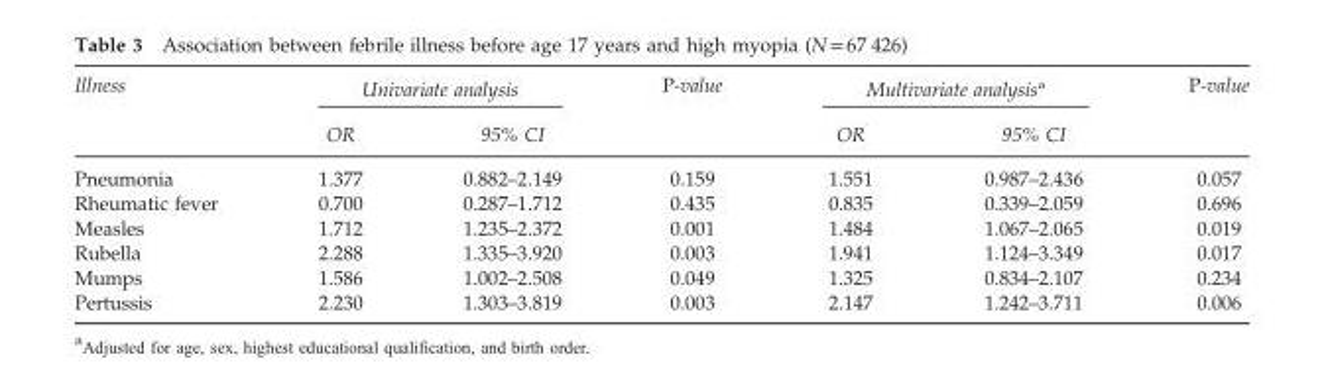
<table><thead><tr><td rowspan="2">Illness</td><td colspan="2">Univariate analysis</td><td rowspan="2">P-value</td><td colspan="2">Multivariate analysis<sup>a</sup></td><td rowspan="2">P-value</td></tr><tr><td>OR</td><td>95% CI</td><td>OR</td><td>95% CI</td></tr></thead><tbody><tr><td>Pneumonia</td><td>1.377</td><td>0.882–2.149</td><td>0.159</td><td>1.551</td><td>0.987–2.436</td><td>0.057</td></tr><tr><td>Rheumatic fever</td><td>0.700</td><td>0.287–1.712</td><td>0.435</td><td>0.835</td><td>0.339–2.059</td><td>0.696</td></tr><tr><td>Measles</td><td>1.712</td><td>1.235–2.372</td><td>0.001</td><td>1.484</td><td>1.067–2.065</td><td>0.019</td></tr><tr><td>Rubella</td><td>2.288</td><td>1.335–3.920</td><td>0.003</td><td>1.941</td><td>1.124–3.349</td><td>0.017</td></tr><tr><td>Mumps</td><td>1.586</td><td>1.002–2.508</td><td>0.049</td><td>1.325</td><td>0.834–2.107</td><td>0.234</td></tr><tr><td>Pertussis</td><td>2.230</td><td>1.303–3.819</td><td>0.003</td><td>2.147</td><td>1.242–3.711</td><td>0.006</td></tr></tbody></table>